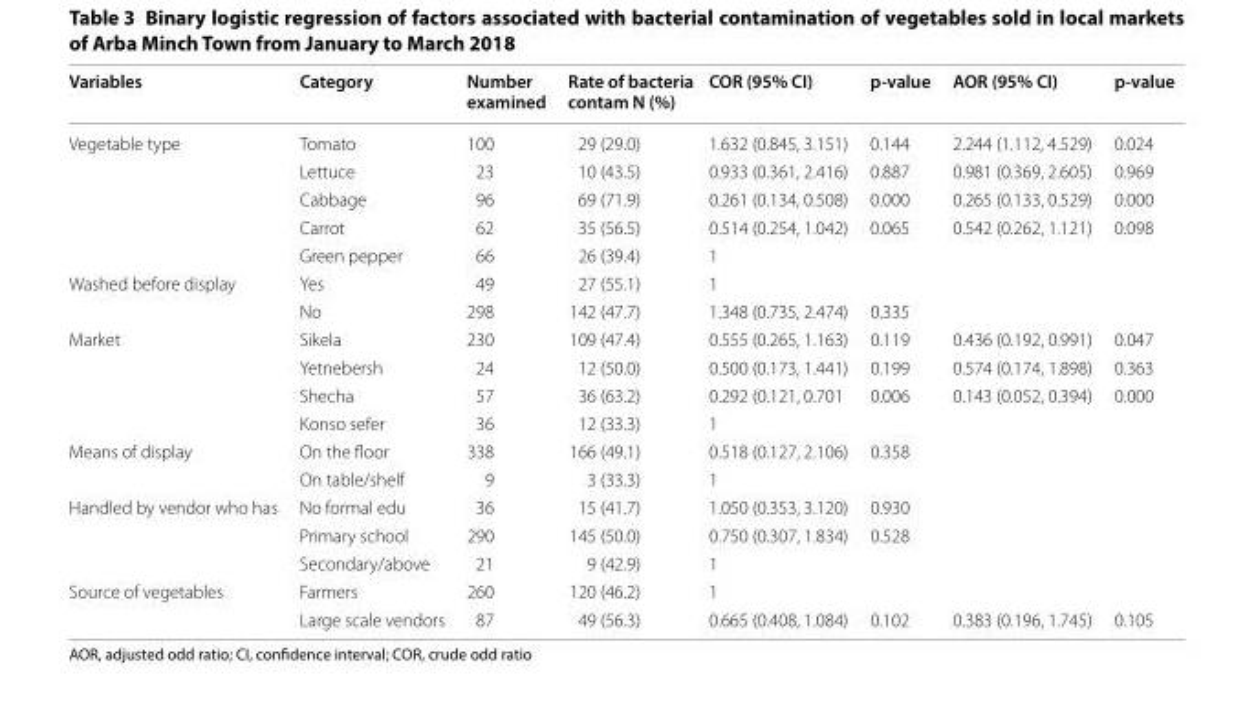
<table><thead><tr><td>Variables</td><td>Category</td><td>Number examined</td><td>Rate of bacteria contam N (%)</td><td>COR (95% CI)</td><td>p-value</td><td>AOR (95% CI)</td><td>p-value</td></tr></thead><tbody><tr><td rowspan="5">Vegetable type</td><td>Tomato</td><td>100</td><td>29 (29.0)</td><td>1.632 (0.845, 3.151)</td><td>0.144</td><td>2.244 (1.112, 4.529)</td><td>0.024</td></tr><tr><td>Lettuce</td><td>23</td><td>10 (43.5)</td><td>0.933 (0.361, 2.416)</td><td>0.887</td><td>0.981 (0.369, 2.605)</td><td>0.969</td></tr><tr><td>Cabbage</td><td>96</td><td>69 (71.9)</td><td>0.261 (0.134, 0.508)</td><td>0.000</td><td>0.265 (0.133, 0.529)</td><td>0.000</td></tr><tr><td>Carrot</td><td>62</td><td>35 (56.5)</td><td>0.514 (0.254, 1.042)</td><td>0.065</td><td>0.542 (0.262, 1.121)</td><td>0.098</td></tr><tr><td>Green pepper</td><td>66</td><td>26 (39.4)</td><td>1</td><td></td><td></td><td></td></tr><tr><td rowspan="2">Washed before display</td><td>Yes</td><td>49</td><td>27 (55.1)</td><td>1</td><td></td><td></td><td></td></tr><tr><td>No</td><td>298</td><td>142 (47.7)</td><td>1.348 (0.735, 2.474)</td><td>0.335</td><td></td><td></td></tr><tr><td rowspan="4">Market</td><td>Sikela</td><td>230</td><td>109 (47.4)</td><td>0.555 (0.265, 1.163)</td><td>0.119</td><td>0.436 (0.192, 0.991)</td><td>0.047</td></tr><tr><td>Yetnebersh</td><td>24</td><td>12 (50.0)</td><td>0.500 (0.173, 1.441)</td><td>0.199</td><td>0.574 (0.174, 1.898)</td><td>0.363</td></tr><tr><td>Shecha</td><td>57</td><td>36 (63.2)</td><td>0.292 (0.121, 0.701</td><td>0.006</td><td>0.143 (0.052, 0.394)</td><td>0.000</td></tr><tr><td>Konso sefer</td><td>36</td><td>12 (33.3)</td><td>1</td><td></td><td></td><td></td></tr><tr><td rowspan="2">Means of display</td><td>On the floor</td><td>338</td><td>166 (49.1)</td><td>0.518 (0.127, 2.106)</td><td>0.358</td><td></td><td></td></tr><tr><td>On table/shelf</td><td>9</td><td>3 (33.3)</td><td>1</td><td></td><td></td><td></td></tr><tr><td rowspan="3">Handled by vendor who has</td><td>No formal edu</td><td>36</td><td>15 (41.7)</td><td>1.050 (0.353, 3.120)</td><td>0.930</td><td></td><td></td></tr><tr><td>Primary school</td><td>290</td><td>145 (50.0)</td><td>0.750 (0.307, 1.834)</td><td>0.528</td><td></td><td></td></tr><tr><td>Secondary/above</td><td>21</td><td>9 (42.9)</td><td>1</td><td></td><td></td><td></td></tr><tr><td rowspan="2">Source of vegetables</td><td>Farmers</td><td>260</td><td>120 (46.2)</td><td>1</td><td></td><td></td><td></td></tr><tr><td>Large scale vendors</td><td>87</td><td>49 (56.3)</td><td>0.665 (0.408, 1.084)</td><td>0.102</td><td>0.383 (0.196, 1.745)</td><td>0.105</td></tr></tbody></table>